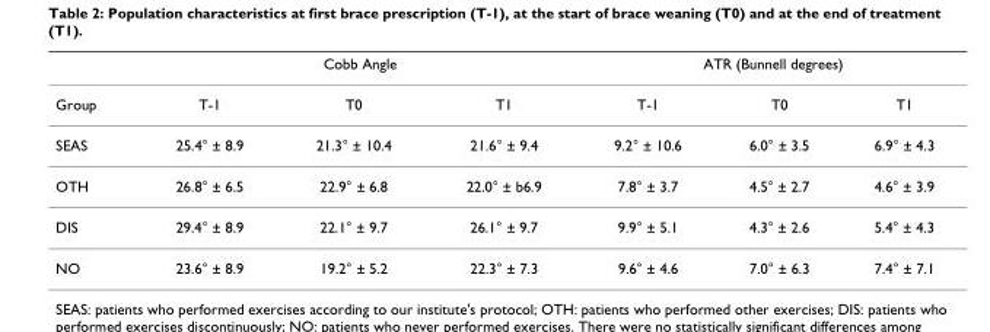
<table><thead><tr><td rowspan="2">Group</td><td colspan="3">Cobb Angle</td><td colspan="3">ATR (Bunnell degrees)</td></tr><tr><td>T-1</td><td>T0</td><td>T1</td><td>T-1</td><td>T0</td><td>T1</td></tr></thead><tbody><tr><td>SEAS</td><td>25.4° ± 8.9</td><td>21.3° ± 10.4</td><td>21.6° ± 9.4</td><td>9.2° ± 10.6</td><td>6.0° ± 3.5</td><td>6.9° ± 4.3</td></tr><tr><td>OTH</td><td>26.8° ± 6.5</td><td>22.9° ± 6.8</td><td>22.0° ± b6.9</td><td>7.8° ± 3.7</td><td>4.5° ± 2.7</td><td>4.6° ± 3.9</td></tr><tr><td>DIS</td><td>29.4° ± 8.9</td><td>22.1° ± 9.7</td><td>26.1° ± 9.7</td><td>9.9° ± 5.1</td><td>4.3° ± 2.6</td><td>5.4° ± 4.3</td></tr><tr><td>NO</td><td>23.6° ± 8.9</td><td>19.2° ± 5.2</td><td>22.3° ± 7.3</td><td>9.6° ± 4.6</td><td>7.0° ± 6.3</td><td>7.4° ± 7.1</td></tr></tbody></table>